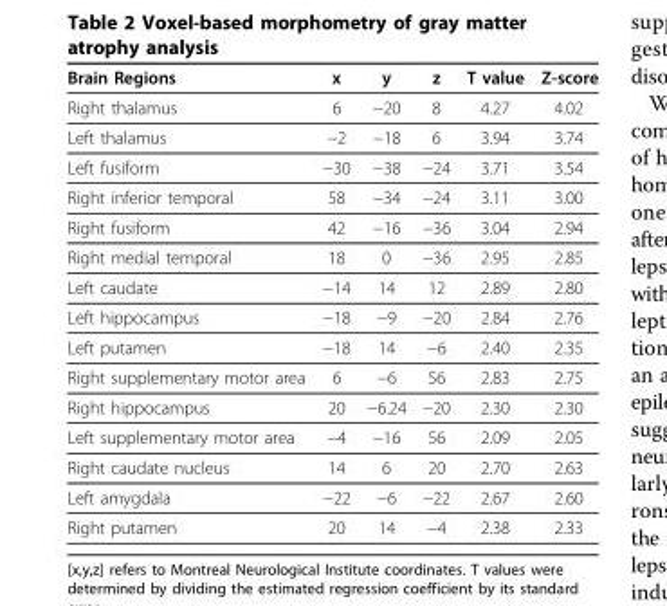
<table><thead><tr><td>Brain Regions</td><td>x</td><td>y</td><td>z</td><td>T value</td><td>Z-score</td></tr></thead><tbody><tr><td>Right thalamus</td><td>6</td><td>−20</td><td>8</td><td>4.27</td><td>4.02</td></tr><tr><td>Left thalamus</td><td>−2</td><td>−18</td><td>6</td><td>3.94</td><td>3.74</td></tr><tr><td>Left fusiform</td><td>−30</td><td>−38</td><td>−24</td><td>3.71</td><td>3.54</td></tr><tr><td>Right inferior temporal</td><td>58</td><td>−34</td><td>−24</td><td>3.11</td><td>3.00</td></tr><tr><td>Right fusiform</td><td>42</td><td>−16</td><td>−36</td><td>3.04</td><td>2.94</td></tr><tr><td>Right medial temporal</td><td>18</td><td>0</td><td>−36</td><td>2.95</td><td>2.85</td></tr><tr><td>Left caudate</td><td>−14</td><td>14</td><td>12</td><td>2.89</td><td>2.80</td></tr><tr><td>Left hippocampus</td><td>−18</td><td>−9</td><td>−20</td><td>2.84</td><td>2.76</td></tr><tr><td>Left putamen</td><td>−18</td><td>14</td><td>−6</td><td>2.40</td><td>2.35</td></tr><tr><td>Right supplementary motor area</td><td>6</td><td>−6</td><td>56</td><td>2.83</td><td>2.75</td></tr><tr><td>Right hippocampus</td><td>20</td><td>−6.24</td><td>−20</td><td>2.30</td><td>2.30</td></tr><tr><td>Left supplementary motor area</td><td>−4</td><td>−16</td><td>56</td><td>2.09</td><td>2.05</td></tr><tr><td>Right caudate nucleus</td><td>14</td><td>6</td><td>20</td><td>2.70</td><td>2.63</td></tr><tr><td>Left amygdala</td><td>−22</td><td>−6</td><td>−22</td><td>2.67</td><td>2.60</td></tr><tr><td>Right putamen</td><td>20</td><td>14</td><td>−4</td><td>2.38</td><td>2.33</td></tr></tbody></table>